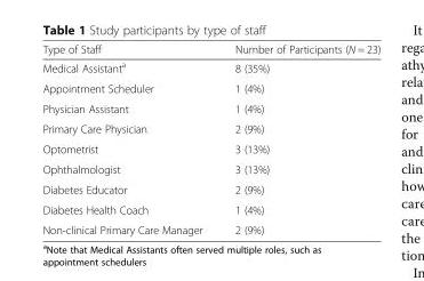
<table><thead><tr><td>Type of Staff</td><td>Number of Participants (N = 23)</td></tr></thead><tbody><tr><td>Medical Assistant<sup>a</sup></td><td>8 (35%)</td></tr><tr><td>Appointment Scheduler</td><td>1 (4%)</td></tr><tr><td>Physician Assistant</td><td>1 (4%)</td></tr><tr><td>Primary Care Physician</td><td>2 (9%)</td></tr><tr><td>Optometrist</td><td>3 (13%)</td></tr><tr><td>Ophthalmologist</td><td>3 (13%)</td></tr><tr><td>Diabetes Educator</td><td>2 (9%)</td></tr><tr><td>Diabetes Health Coach</td><td>1 (4%)</td></tr><tr><td>Non-clinical Primary Care Manager</td><td>2 (9%)</td></tr></tbody></table>